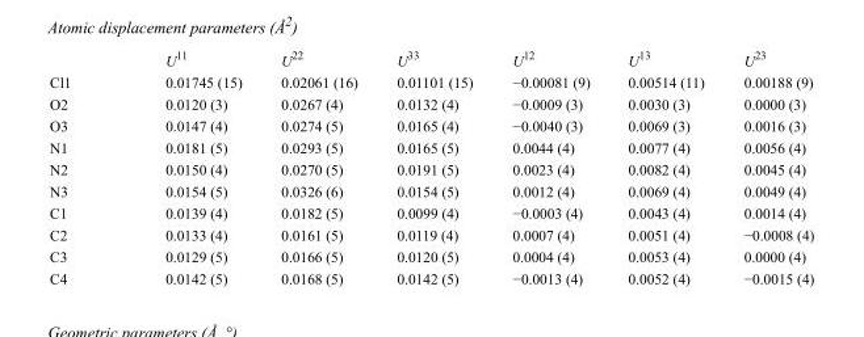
<table><thead><tr><td></td><td>U<sup>11</sup></td><td>U<sup>22</sup></td><td>U<sup>33</sup></td><td>U<sup>12</sup></td><td>U<sup>13</sup></td><td>U<sup>23</sup></td></tr></thead><tbody><tr><td>Cl1</td><td>0.01745 (15)</td><td>0.02061 (16)</td><td>0.01101 (15)</td><td>−0.00081 (9)</td><td>0.00514 (11)</td><td>0.00188 (9)</td></tr><tr><td>O2</td><td>0.0120 (3)</td><td>0.0267 (4)</td><td>0.0132 (4)</td><td>−0.0009 (3)</td><td>0.0030 (3)</td><td>0.0000 (3)</td></tr><tr><td>O3</td><td>0.0147 (4)</td><td>0.0274 (5)</td><td>0.0165 (4)</td><td>−0.0040 (3)</td><td>0.0069 (3)</td><td>0.0016 (3)</td></tr><tr><td>N1</td><td>0.0181 (5)</td><td>0.0293 (5)</td><td>0.0165 (5)</td><td>0.0044 (4)</td><td>0.0077 (4)</td><td>0.0056 (4)</td></tr><tr><td>N2</td><td>0.0150 (4)</td><td>0.0270 (5)</td><td>0.0191 (5)</td><td>0.0023 (4)</td><td>0.0082 (4)</td><td>0.0045 (4)</td></tr><tr><td>N3</td><td>0.0154 (5)</td><td>0.0326 (6)</td><td>0.0154 (5)</td><td>0.0012 (4)</td><td>0.0069 (4)</td><td>0.0049 (4)</td></tr><tr><td>C1</td><td>0.0139 (4)</td><td>0.0182 (5)</td><td>0.0099 (4)</td><td>−0.0003 (4)</td><td>0.0043 (4)</td><td>0.0014 (4)</td></tr><tr><td>C2</td><td>0.0133 (4)</td><td>0.0161 (5)</td><td>0.0119 (4)</td><td>0.0007 (4)</td><td>0.0051 (4)</td><td>−0.0008 (4)</td></tr><tr><td>C3</td><td>0.0129 (5)</td><td>0.0166 (5)</td><td>0.0120 (5)</td><td>0.0004 (4)</td><td>0.0053 (4)</td><td>0.0000 (4)</td></tr><tr><td>C4</td><td>0.0142 (5)</td><td>0.0168 (5)</td><td>0.0142 (5)</td><td>−0.0013 (4)</td><td>0.0052 (4)</td><td>−0.0015 (4)</td></tr></tbody></table>